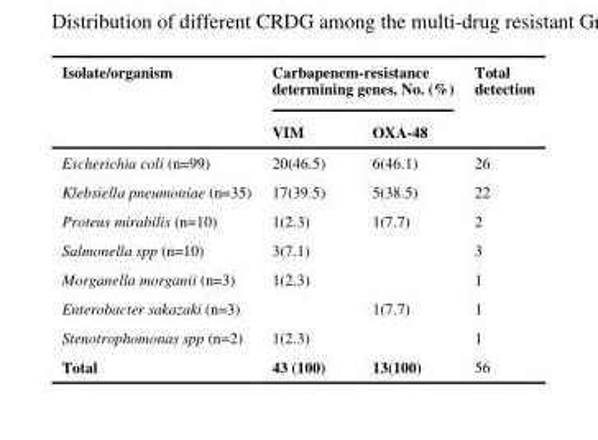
<table><thead><tr><td rowspan="2">Isolate/organism</td><td colspan="2">Carbapenem-resistance determining genes, No. (%)</td><td rowspan="2">Total detection</td></tr><tr><td>VIM</td><td>OXA-48</td></tr></thead><tbody><tr><td>Escherichia coli (n=99)</td><td>20(46.5)</td><td>6(46.1)</td><td>26</td></tr><tr><td>Klebsiella pneumoniae (n=35)</td><td>17(39.5)</td><td>5(38.5)</td><td>22</td></tr><tr><td>Proteus mirabilis (n=10)</td><td>1(2.3)</td><td>1(7.7)</td><td>2</td></tr><tr><td>Salmonella spp (n=10)</td><td>3(7.1)</td><td></td><td>3</td></tr><tr><td>Morganella morganii (n=3)</td><td>1(2.3)</td><td></td><td>1</td></tr><tr><td>Enterobacter sakazaki (n=3)</td><td></td><td>1(7.7)</td><td>1</td></tr><tr><td>Stenotrophomonas spp (n=2)</td><td>1(2.3)</td><td></td><td>1</td></tr><tr><td>Total</td><td>43 (100)</td><td>13(100)</td><td>56</td></tr></tbody></table>